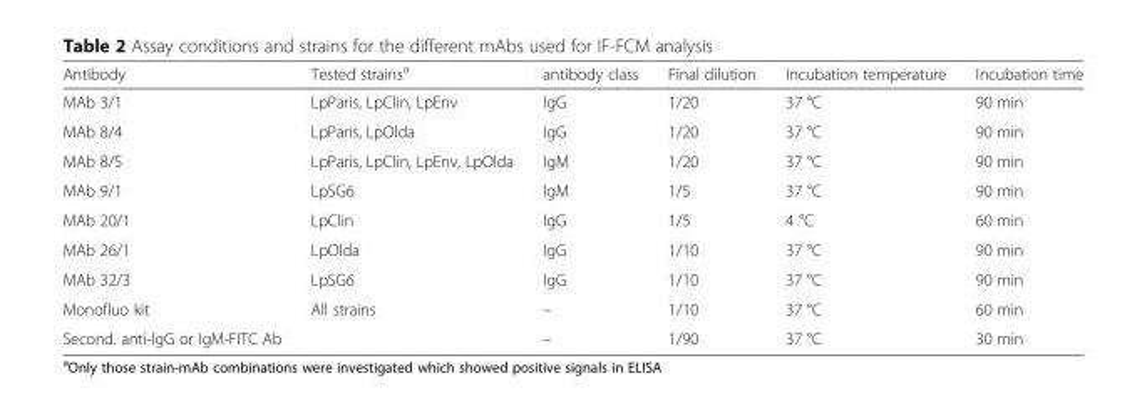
<table><thead><tr><td>Antibody</td><td>Tested strains<sup>a</sup></td><td>antibody class</td><td>Final dilution</td><td>Incubation temperature</td><td>Incubation time</td></tr></thead><tbody><tr><td>MAb 3/1</td><td>LpParis, LpClin, LpEnv</td><td>IgG</td><td>1/20</td><td>37 °C</td><td>90 min</td></tr><tr><td>MAb 8/4</td><td>LpParis, LpOlda</td><td>IgG</td><td>1/20</td><td>37 °C</td><td>90 min</td></tr><tr><td>MAb 8/5</td><td>LpParis, LpClin, LpEnv, LpOlda</td><td>IgM</td><td>1/20</td><td>37 °C</td><td>90 min</td></tr><tr><td>MAb 9/1</td><td>LpSG6</td><td>IgM</td><td>1/5</td><td>37 °C</td><td>90 min</td></tr><tr><td>MAb 20/1</td><td>LpClin</td><td>IgG</td><td>1/5</td><td>4 °C</td><td>60 min</td></tr><tr><td>MAb 26/1</td><td>LpOlda</td><td>IgG</td><td>1/10</td><td>37 °C</td><td>90 min</td></tr><tr><td>MAb 32/3</td><td>LpSG6</td><td>IgG</td><td>1/10</td><td>37 °C</td><td>90 min</td></tr><tr><td>Monofluo kit</td><td>All strains</td><td>–</td><td>1/10</td><td>37 °C</td><td>60 min</td></tr><tr><td>Second. anti-IgG or IgM-FITC Ab</td><td></td><td>–</td><td>1/90</td><td>37 °C</td><td>30 min</td></tr></tbody></table>